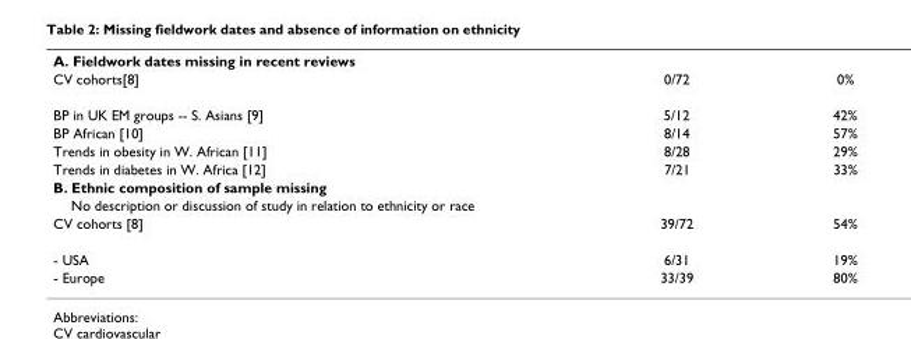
<table><tbody><tr><td colspan="3">A. Fieldwork dates missing in recent reviews</td></tr><tr><td>CV cohorts[8]</td><td>0/72</td><td>0%</td></tr><tr><td>BP in UK EM groups -- S. Asians [9]</td><td>5/12</td><td>42%</td></tr><tr><td>BP African [10]</td><td>8/14</td><td>57%</td></tr><tr><td>Trends in obesity in W. African [11]</td><td>8/28</td><td>29%</td></tr><tr><td>Trends in diabetes in W. Africa [12]</td><td>7/21</td><td>33%</td></tr><tr><td colspan="3">B. Ethnic composition of sample missing</td></tr><tr><td colspan="3">No description or discussion of study in relation to ethnicity or race</td></tr><tr><td>CV cohorts [8]</td><td>39/72</td><td>54%</td></tr><tr><td>- USA</td><td>6/31</td><td>19%</td></tr><tr><td>- Europe</td><td>33/39</td><td>80%</td></tr></tbody></table>